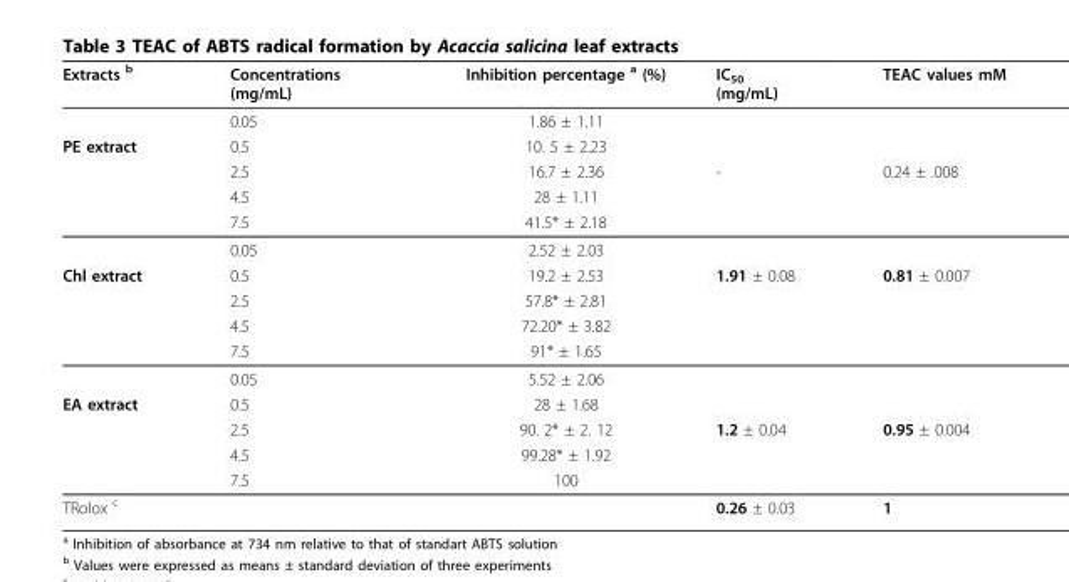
<table><thead><tr><td>Extracts <sup>b</sup></td><td>Concentrations (mg/mL)</td><td>Inhibition percentage <sup>a</sup> (%)</td><td>IC<sub>50</sub> (mg/mL)</td><td>TEAC values mM</td></tr></thead><tbody><tr><td></td><td>0.05</td><td>1.86 ± 1.11</td><td></td><td></td></tr><tr><td rowspan="5">PE extract</td><td>0.5</td><td>10. 5 ± 2.23</td><td></td><td></td></tr><tr><td>2.5</td><td>16.7 ± 2.36</td><td>-</td><td>0.24 ± .008</td></tr><tr><td>4.5</td><td>28 ± 1.11</td><td></td><td></td></tr><tr><td>7.5</td><td>41.5* ± 2.18</td><td></td><td></td></tr><tr><td>0.05</td><td>2.52 ± 2.03</td><td></td><td></td></tr><tr><td rowspan="5">Chl extract</td><td>0.5</td><td>19.2 ± 2.53</td><td>1.91 ± 0.08</td><td>0.81 ± 0.007</td></tr><tr><td>2.5</td><td>57.8* ± 2.81</td><td></td><td></td></tr><tr><td>4.5</td><td>72.20* ± 3.82</td><td></td><td></td></tr><tr><td>7.5</td><td>91* ± 1.65</td><td></td><td></td></tr><tr><td>0.05</td><td>5.52 ± 2.06</td><td></td><td></td></tr><tr><td rowspan="4">EA extract</td><td>0.5</td><td>28 ± 1.68</td><td></td><td></td></tr><tr><td>2.5</td><td>90. 2* ± 2. 12</td><td>1.2 ± 0.04</td><td>0.95 ± 0.004</td></tr><tr><td>4.5</td><td>99.28* ± 1.92</td><td></td><td></td></tr><tr><td>7.5</td><td>100</td><td></td><td></td></tr><tr><td>TRolox <sup>c</sup></td><td></td><td></td><td>0.26 ± 0.03</td><td>1</td></tr></tbody></table>